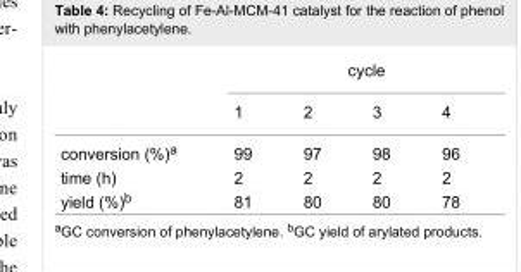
<table><thead><tr><td rowspan="2"></td><td colspan="4">cycle</td></tr><tr><td>1</td><td>2</td><td>3</td><td>4</td></tr></thead><tbody><tr><td>conversion (%)<sup>a</sup></td><td>99</td><td>97</td><td>98</td><td>96</td></tr><tr><td>time (h)</td><td>2</td><td>2</td><td>2</td><td>2</td></tr><tr><td>yield (%)<sup>b</sup></td><td>81</td><td>80</td><td>80</td><td>78</td></tr></tbody></table>